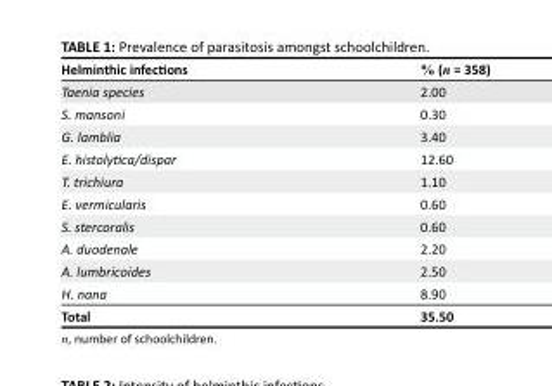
<table><thead><tr><td>Helminthic infections</td><td>% (n = 358)</td></tr></thead><tbody><tr><td>Taenia species</td><td>2.00</td></tr><tr><td>S. mansoni</td><td>0.30</td></tr><tr><td>G. lamblia</td><td>3.40</td></tr><tr><td>E. histolytica/dispar</td><td>12.60</td></tr><tr><td>T. trichiura</td><td>1.10</td></tr><tr><td>E. vermicularis</td><td>0.60</td></tr><tr><td>S. stercoralis</td><td>0.60</td></tr><tr><td>A. duodenale</td><td>2.20</td></tr><tr><td>A. lumbricoides</td><td>2.50</td></tr><tr><td>H. nana</td><td>8.90</td></tr><tr><td>Total</td><td>35.50</td></tr></tbody></table>